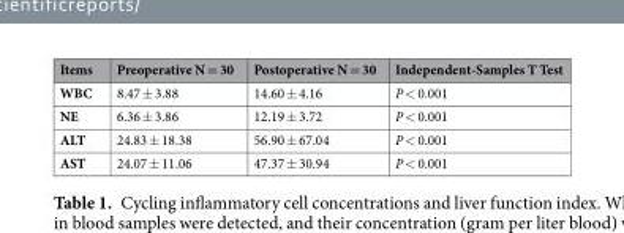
<table><thead><tr><td>Items</td><td>Preoperative N = 30</td><td>Postoperative N = 30</td><td>Independent-Samples T Test</td></tr></thead><tbody><tr><td>WBC</td><td>8.47 ± 3.88</td><td>14.60 ± 4.16</td><td>P &lt; 0.001</td></tr><tr><td>NE</td><td>6.36 ± 3.86</td><td>12.19 ± 3.72</td><td>P &lt; 0.001</td></tr><tr><td>ALT</td><td>24.83 ± 18.38</td><td>56.90 ± 67.04</td><td>P &lt; 0.001</td></tr><tr><td>AST</td><td>24.07 ± 11.06</td><td>47.37 ± 30.94</td><td>P &lt; 0.001</td></tr></tbody></table>